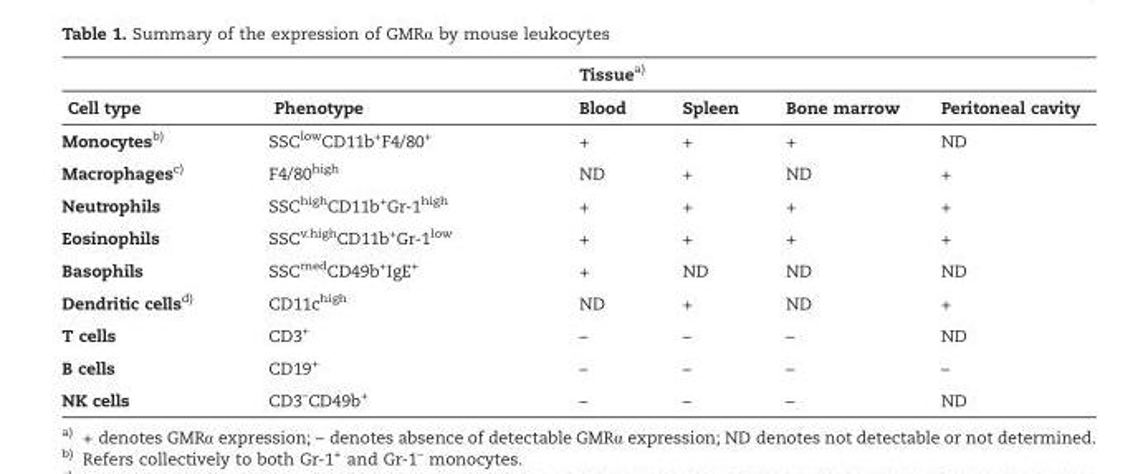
<table><thead><tr><td colspan="6">Tissue<sup>a</sup>)</td></tr><tr><td>Cell type</td><td>Phenotype</td><td>Blood</td><td>Spleen</td><td>Bone marrow</td><td>Peritoneal cavity</td></tr></thead><tbody><tr><td>Monocytes<sup>b</sup>)</td><td>SSC<sup>low</sup>CD11b<sup>+</sup>F4/80<sup>+</sup></td><td>+</td><td>+</td><td>+</td><td>ND</td></tr><tr><td>Macrophages<sup>c</sup>)</td><td>F4/80<sup>high</sup></td><td>ND</td><td>+</td><td>ND</td><td>+</td></tr><tr><td>Neutrophils</td><td>SSC<sup>high</sup>CD11b<sup>+</sup>Gr-1<sup>high</sup></td><td>+</td><td>+</td><td>+</td><td>+</td></tr><tr><td>Eosinophils</td><td>SSC<sup>v.high</sup>CD11b<sup>+</sup>Gr-1<sup>low</sup></td><td>+</td><td>+</td><td>+</td><td>+</td></tr><tr><td>Basophils</td><td>SSC<sup>med</sup>CD49b<sup>+</sup>IgE<sup>+</sup></td><td>+</td><td>ND</td><td>ND</td><td>ND</td></tr><tr><td>Dendritic cells<sup>d</sup>)</td><td>CD11c<sup>high</sup></td><td>ND</td><td>+</td><td>ND</td><td>+</td></tr><tr><td>T cells</td><td>CD3<sup>+</sup></td><td>–</td><td>–</td><td>–</td><td>ND</td></tr><tr><td>B cells</td><td>CD19<sup>+</sup></td><td>–</td><td>–</td><td>–</td><td>–</td></tr><tr><td>NK cells</td><td>CD3<sup>–</sup>CD49b<sup>+</sup></td><td>–</td><td>–</td><td>–</td><td>ND</td></tr></tbody></table>